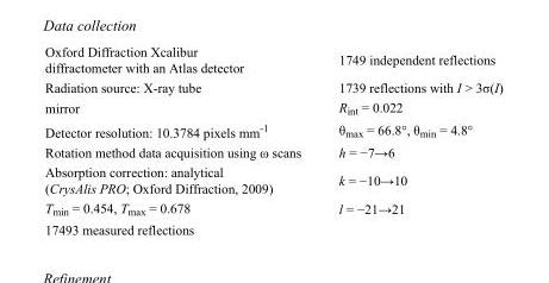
<table><tbody><tr><td>Oxford Diffraction Xcalibur diffractometer with an Atlas detector</td><td>1749 independent reflections</td></tr><tr><td>Radiation source: X-ray tube</td><td>1739 reflections with I &gt; 3σ(I)</td></tr><tr><td>mirror</td><td>R<sub>int</sub> = 0.022</td></tr><tr><td>Detector resolution: 10.3784 pixels mm<sup>-1</sup></td><td>θ<sub>max</sub> = 66.8°, θ<sub>min</sub> = 4.8°</td></tr><tr><td>Rotation method data acquisition using ω scans</td><td>h = −7→6</td></tr><tr><td>Absorption correction: analytical (CrysAlis PRO; Oxford Diffraction, 2009)</td><td>k = −10→10</td></tr><tr><td>T<sub>min</sub> = 0.454, T<sub>max</sub> = 0.678</td><td>l = −21→21</td></tr><tr><td>17493 measured reflections</td><td></td></tr></tbody></table>